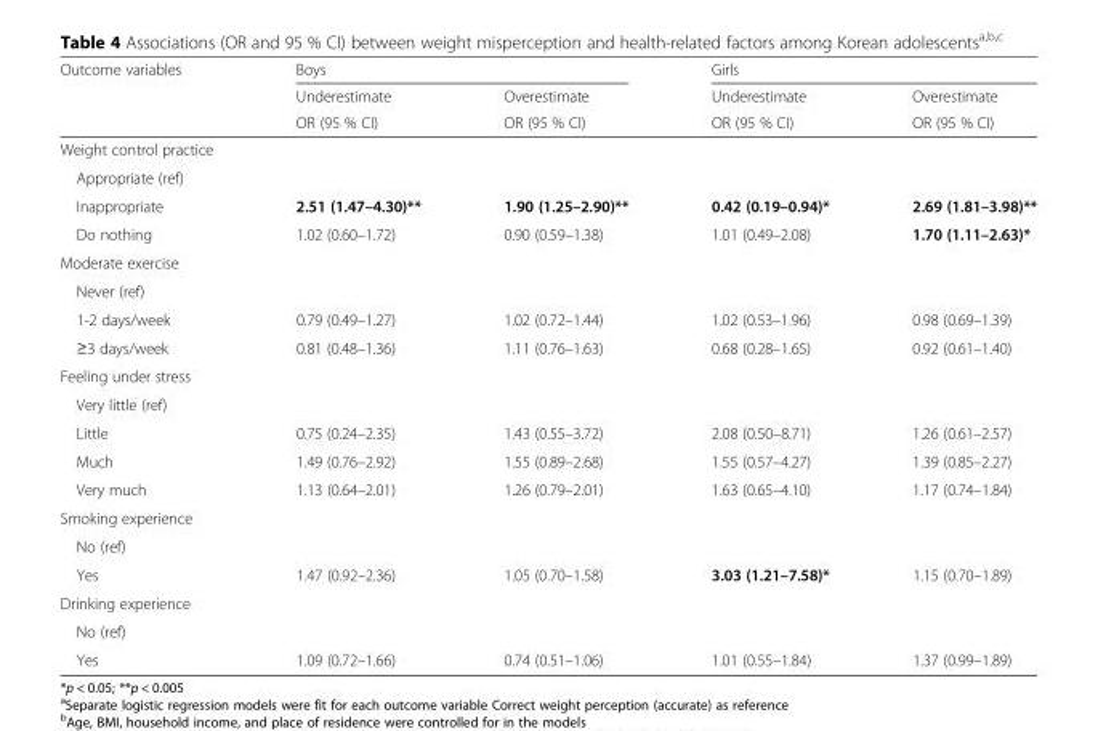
<table><thead><tr><td rowspan="3">Outcome variables</td><td colspan="2">Boys</td><td colspan="2">Girls</td></tr><tr><td rowspan="2">Underestimate OR (95 % CI)</td><td rowspan="2">Overestimate OR (95 % CI)</td><td rowspan="2">Underestimate OR (95 % CI)</td><td rowspan="2">Overestimate OR (95 % CI)</td></tr><tr></tr></thead><tbody><tr><td colspan="5">Weight control practice</td></tr><tr><td colspan="5">Appropriate (ref)</td></tr><tr><td>Inappropriate</td><td>2.51 (1.47–4.30)**</td><td>1.90 (1.25–2.90)**</td><td>0.42 (0.19–0.94)*</td><td>2.69 (1.81–3.98)**</td></tr><tr><td>Do nothing</td><td>1.02 (0.60–1.72)</td><td>0.90 (0.59–1.38)</td><td>1.01 (0.49–2.08)</td><td>1.70 (1.11–2.63)*</td></tr><tr><td colspan="5">Moderate exercise</td></tr><tr><td colspan="5">Never (ref)</td></tr><tr><td>1-2 days/week</td><td>0.79 (0.49–1.27)</td><td>1.02 (0.72–1.44)</td><td>1.02 (0.53–1.96)</td><td>0.98 (0.69–1.39)</td></tr><tr><td>≥3 days/week</td><td>0.81 (0.48–1.36)</td><td>1.11 (0.76–1.63)</td><td>0.68 (0.28–1.65)</td><td>0.92 (0.61–1.40)</td></tr><tr><td colspan="5">Feeling under stress</td></tr><tr><td colspan="5">Very little (ref)</td></tr><tr><td>Little</td><td>0.75 (0.24–2.35)</td><td>1.43 (0.55–3.72)</td><td>2.08 (0.50–8.71)</td><td>1.26 (0.61–2.57)</td></tr><tr><td>Much</td><td>1.49 (0.76–2.92)</td><td>1.55 (0.89–2.68)</td><td>1.55 (0.57–4.27)</td><td>1.39 (0.85–2.27)</td></tr><tr><td>Very much</td><td>1.13 (0.64–2.01)</td><td>1.26 (0.79–2.01)</td><td>1.63 (0.65–4.10)</td><td>1.17 (0.74–1.84)</td></tr><tr><td colspan="5">Smoking experience</td></tr><tr><td colspan="5">No (ref)</td></tr><tr><td>Yes</td><td>1.47 (0.92–2.36)</td><td>1.05 (0.70–1.58)</td><td>3.03 (1.21–7.58)*</td><td>1.15 (0.70–1.89)</td></tr><tr><td colspan="5">Drinking experience</td></tr><tr><td colspan="5">No (ref)</td></tr><tr><td>Yes</td><td>1.09 (0.72–1.66)</td><td>0.74 (0.51–1.06)</td><td>1.01 (0.55–1.84)</td><td>1.37 (0.99–1.89)</td></tr></tbody></table>